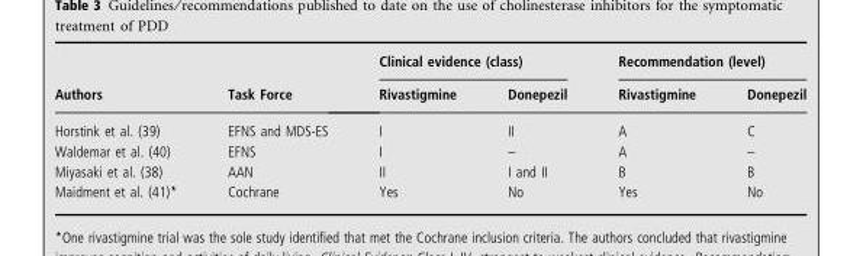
<table><thead><tr><td rowspan="2">Authors</td><td rowspan="2">Task Force</td><td colspan="2">Clinical evidence (class)</td><td colspan="2">Recommendation (level)</td></tr><tr><td>Rivastigmine</td><td>Donepezil</td><td>Rivastigmine</td><td>Donepezil</td></tr></thead><tbody><tr><td>Horstink et al. (39)</td><td>EFNS and MDS-ES</td><td>I</td><td>II</td><td>A</td><td>C</td></tr><tr><td>Waldemar et al. (40)</td><td>EFNS</td><td>I</td><td>–</td><td>A</td><td>–</td></tr><tr><td>Miyasaki et al. (38)</td><td>AAN</td><td>II</td><td>I and II</td><td>B</td><td>B</td></tr><tr><td>Maidment et al. (41)*</td><td>Cochrane</td><td>Yes</td><td>No</td><td>Yes</td><td>No</td></tr></tbody></table>